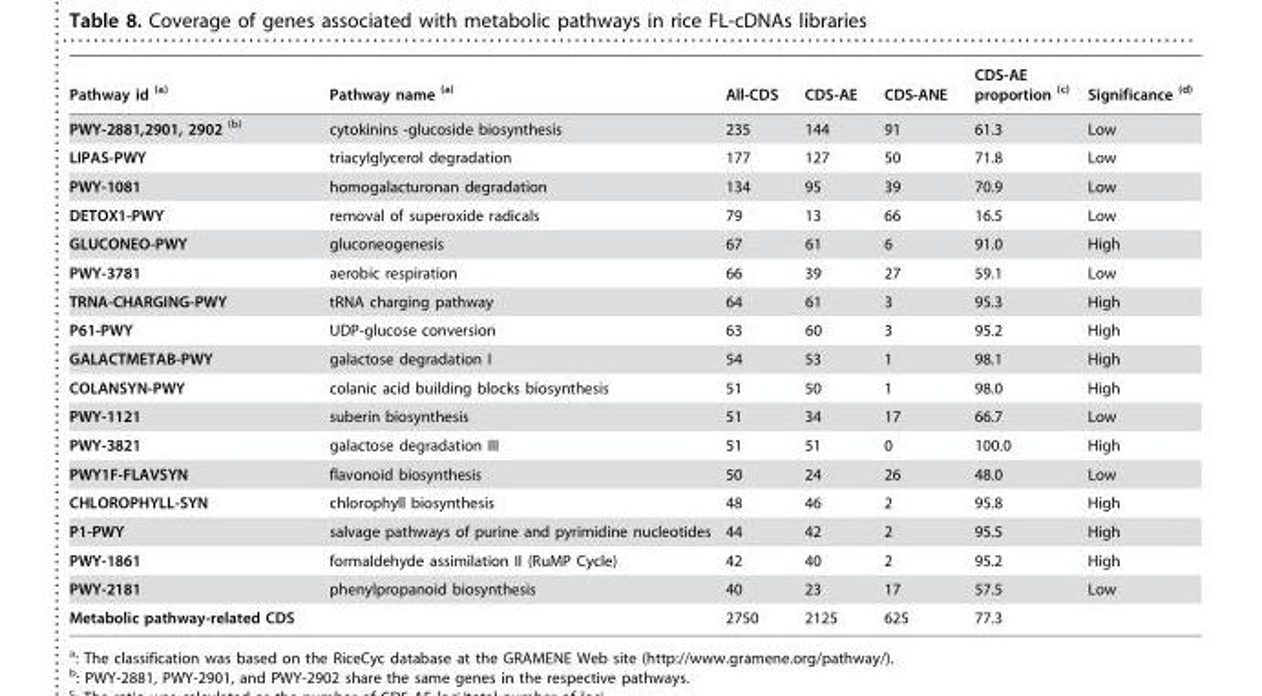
<table><thead><tr><td>Pathway id (a)</td><td>Pathway name (a)</td><td>All-CDS</td><td>CDS-AE</td><td>CDS-ANE</td><td>CDS-AE proportion (c)</td><td>Significance (d)</td></tr></thead><tbody><tr><td>PWY-2881,2901, 2902 (b)</td><td>cytokinins -glucoside biosynthesis</td><td>235</td><td>144</td><td>91</td><td>61.3</td><td>Low</td></tr><tr><td>LIPAS-PWY</td><td>triacylglycerol degradation</td><td>177</td><td>127</td><td>50</td><td>71.8</td><td>Low</td></tr><tr><td>PWY-1081</td><td>homogalacturonan degradation</td><td>134</td><td>95</td><td>39</td><td>70.9</td><td>Low</td></tr><tr><td>DETOX1-PWY</td><td>removal of superoxide radicals</td><td>79</td><td>13</td><td>66</td><td>16.5</td><td>Low</td></tr><tr><td>GLUCONEO-PWY</td><td>gluconeogenesis</td><td>67</td><td>61</td><td>6</td><td>91.0</td><td>High</td></tr><tr><td>PWY-3781</td><td>aerobic respiration</td><td>66</td><td>39</td><td>27</td><td>59.1</td><td>Low</td></tr><tr><td>TRNA-CHARGING-PWY</td><td>tRNA charging pathway</td><td>64</td><td>61</td><td>3</td><td>95.3</td><td>High</td></tr><tr><td>P61-PWY</td><td>UDP-glucose conversion</td><td>63</td><td>60</td><td>3</td><td>95.2</td><td>High</td></tr><tr><td>GALACTMETAB-PWY</td><td>galactose degradation I</td><td>54</td><td>53</td><td>1</td><td>98.1</td><td>High</td></tr><tr><td>COLANSYN-PWY</td><td>colanic acid building blocks biosynthesis</td><td>51</td><td>50</td><td>1</td><td>98.0</td><td>High</td></tr><tr><td>PWY-1121</td><td>suberin biosynthesis</td><td>51</td><td>34</td><td>17</td><td>66.7</td><td>Low</td></tr><tr><td>PWY-3821</td><td>galactose degradation III</td><td>51</td><td>51</td><td>0</td><td>100.0</td><td>High</td></tr><tr><td>PWY1F-FLAVSYN</td><td>flavonoid biosynthesis</td><td>50</td><td>24</td><td>26</td><td>48.0</td><td>Low</td></tr><tr><td>CHLOROPHYLL-SYN</td><td>chlorophyll biosynthesis</td><td>48</td><td>46</td><td>2</td><td>95.8</td><td>High</td></tr><tr><td>P1-PWY</td><td>salvage pathways of purine and pyrimidine nucleotides</td><td>44</td><td>42</td><td>2</td><td>95.5</td><td>High</td></tr><tr><td>PWY-1861</td><td>formaldehyde assimilation II (RuMP Cycle)</td><td>42</td><td>40</td><td>2</td><td>95.2</td><td>High</td></tr><tr><td>PWY-2181</td><td>phenylpropanoid biosynthesis</td><td>40</td><td>23</td><td>17</td><td>57.5</td><td>Low</td></tr><tr><td colspan="2">Metabolic pathway-related CDS</td><td>2750</td><td>2125</td><td>625</td><td>77.3</td><td></td></tr></tbody></table>